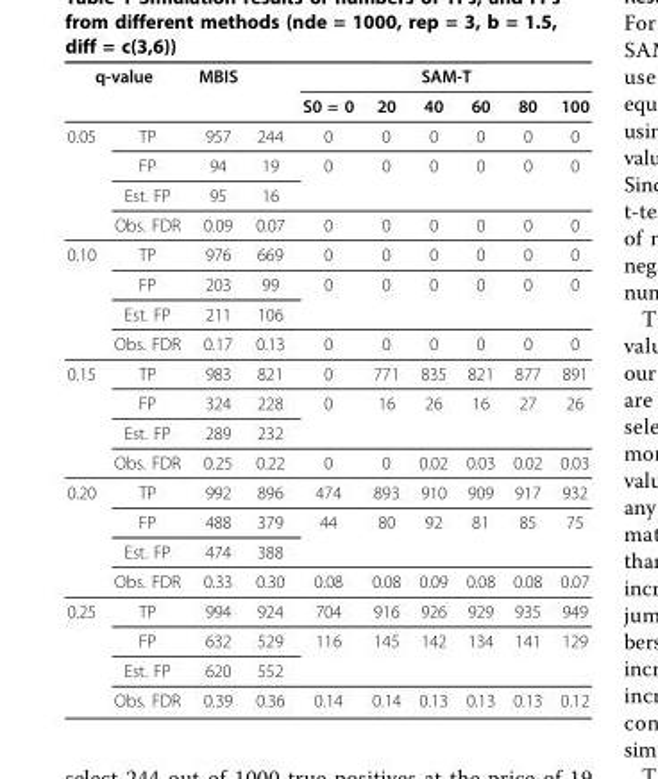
<table><thead><tr><td colspan="2">q-value</td><td rowspan="2">MBIS</td><td rowspan="2"></td><td colspan="6">SAM-T</td></tr><tr><td></td><td></td><td>S0 = 0</td><td>20</td><td>40</td><td>60</td><td>80</td><td>100</td></tr></thead><tbody><tr><td rowspan="4">0.05</td><td>TP</td><td>957</td><td>244</td><td>0</td><td>0</td><td>0</td><td>0</td><td>0</td><td>0</td></tr><tr><td>FP</td><td>94</td><td>19</td><td>0</td><td>0</td><td>0</td><td>0</td><td>0</td><td>0</td></tr><tr><td>Est. FP</td><td>95</td><td>16</td><td></td><td></td><td></td><td></td><td></td><td></td></tr><tr><td>Obs. FDR</td><td>0.09</td><td>0.07</td><td>0</td><td>0</td><td>0</td><td>0</td><td>0</td><td>0</td></tr><tr><td rowspan="4">0.10</td><td>TP</td><td>976</td><td>669</td><td>0</td><td>0</td><td>0</td><td>0</td><td>0</td><td>0</td></tr><tr><td>FP</td><td>203</td><td>99</td><td>0</td><td>0</td><td>0</td><td>0</td><td>0</td><td>0</td></tr><tr><td>Est. FP</td><td>211</td><td>106</td><td></td><td></td><td></td><td></td><td></td><td></td></tr><tr><td>Obs. FDR</td><td>0.17</td><td>0.13</td><td>0</td><td>0</td><td>0</td><td>0</td><td>0</td><td>0</td></tr><tr><td rowspan="4">0.15</td><td>TP</td><td>983</td><td>821</td><td>0</td><td>771</td><td>835</td><td>821</td><td>877</td><td>891</td></tr><tr><td>FP</td><td>324</td><td>228</td><td>0</td><td>16</td><td>26</td><td>16</td><td>27</td><td>26</td></tr><tr><td>Est. FP</td><td>289</td><td>232</td><td></td><td></td><td></td><td></td><td></td><td></td></tr><tr><td>Obs. FDR</td><td>0.25</td><td>0.22</td><td>0</td><td>0</td><td>0.02</td><td>0.03</td><td>0.02</td><td>0.03</td></tr><tr><td rowspan="4">0.20</td><td>TP</td><td>992</td><td>896</td><td>474</td><td>893</td><td>910</td><td>909</td><td>917</td><td>932</td></tr><tr><td>FP</td><td>488</td><td>379</td><td>44</td><td>80</td><td>92</td><td>81</td><td>85</td><td>75</td></tr><tr><td>Est. FP</td><td>474</td><td>388</td><td></td><td></td><td></td><td></td><td></td><td></td></tr><tr><td>Obs. FDR</td><td>0.33</td><td>0.30</td><td>0.08</td><td>0.08</td><td>0.09</td><td>0.08</td><td>0.08</td><td>0.07</td></tr><tr><td rowspan="4">0.25</td><td>TP</td><td>994</td><td>924</td><td>704</td><td>916</td><td>926</td><td>929</td><td>935</td><td>949</td></tr><tr><td>FP</td><td>632</td><td>529</td><td>116</td><td>145</td><td>142</td><td>134</td><td>141</td><td>129</td></tr><tr><td>Est. FP</td><td>620</td><td>552</td><td></td><td></td><td></td><td></td><td></td><td></td></tr><tr><td>Obs. FDR</td><td>0.39</td><td>0.36</td><td>0.14</td><td>0.14</td><td>0.13</td><td>0.13</td><td>0.13</td><td>0.12</td></tr></tbody></table>